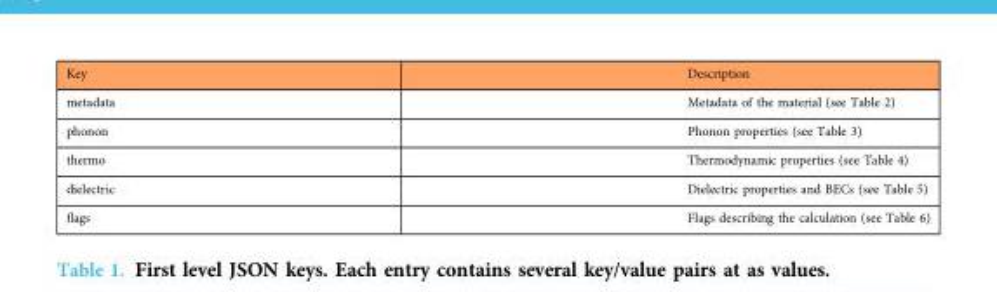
<table><thead><tr><td>Key</td><td>Description</td></tr></thead><tbody><tr><td>metadata</td><td>Metadata of the material (see Table 2)</td></tr><tr><td>phonon</td><td>Phonon properties (see Table 3)</td></tr><tr><td>thermo</td><td>Thermodynamic properties (see Table 4)</td></tr><tr><td>dielectric</td><td>Dielectric properties and BECs (see Table 5)</td></tr><tr><td>flags</td><td>Flags describing the calculation (see Table 6)</td></tr></tbody></table>